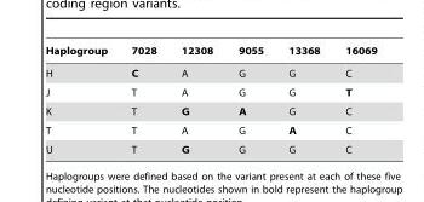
<table><thead><tr><td>Haplogroup</td><td>7028</td><td>12308</td><td>9055</td><td>13368</td><td>16069</td></tr></thead><tbody><tr><td>H</td><td>C</td><td>A</td><td>G</td><td>G</td><td>C</td></tr><tr><td>J</td><td>T</td><td>A</td><td>G</td><td>G</td><td>T</td></tr><tr><td>K</td><td>T</td><td>G</td><td>A</td><td>G</td><td>C</td></tr><tr><td>T</td><td>T</td><td>A</td><td>G</td><td>A</td><td>C</td></tr><tr><td>U</td><td>T</td><td>G</td><td>G</td><td>G</td><td>C</td></tr></tbody></table>